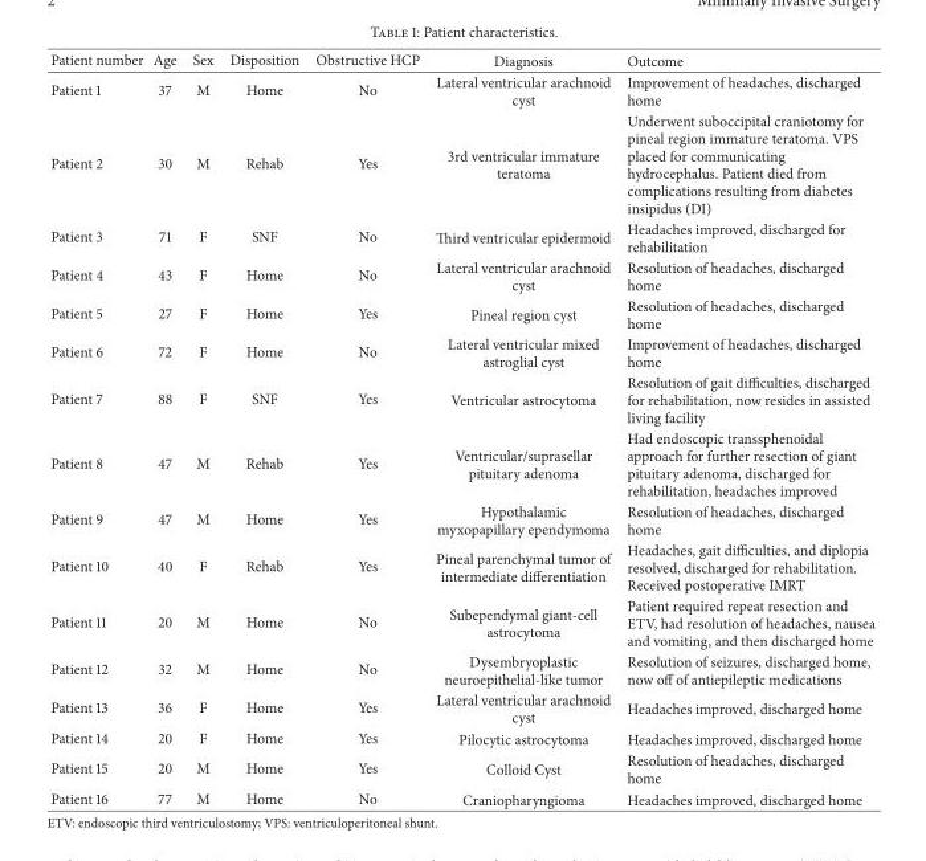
<table><thead><tr><td>Patient number</td><td>Age</td><td>Sex</td><td>Disposition</td><td>Obstructive HCP</td><td>Diagnosis</td><td>Outcome</td></tr></thead><tbody><tr><td>Patient 1</td><td>37</td><td>M</td><td>Home</td><td>No</td><td>Lateral ventricular arachnoid cyst</td><td>Improvement of headaches, discharged home</td></tr><tr><td>Patient 2</td><td>30</td><td>M</td><td>Rehab</td><td>Yes</td><td>3rd ventricular immature teratoma</td><td>Underwent suboccipital craniotomy for pineal region immature teratoma. VPS placed for communicating hydrocephalus. Patient died from complications resulting from diabetes insipidus (DI)</td></tr><tr><td>Patient 3</td><td>71</td><td>F</td><td>SNF</td><td>No</td><td>Third ventricular epidermoid</td><td>Headaches improved, discharged for rehabilitation</td></tr><tr><td>Patient 4</td><td>43</td><td>F</td><td>Home</td><td>No</td><td>Lateral ventricular arachnoid cyst</td><td>Resolution of headaches, discharged home</td></tr><tr><td>Patient 5</td><td>27</td><td>F</td><td>Home</td><td>Yes</td><td>Pineal region cyst</td><td>Resolution of headaches, discharged home</td></tr><tr><td>Patient 6</td><td>72</td><td>F</td><td>Home</td><td>No</td><td>Lateral ventricular mixed astroglial cyst</td><td>Improvement of headaches, discharged home</td></tr><tr><td>Patient 7</td><td>88</td><td>F</td><td>SNF</td><td>Yes</td><td>Ventricular astrocytoma</td><td>Resolution of gait difficulties, discharged for rehabilitation, now resides in assisted living facility</td></tr><tr><td>Patient 8</td><td>47</td><td>M</td><td>Rehab</td><td>Yes</td><td>Ventricular/suprasellar pituitary adenoma</td><td>Had endoscopic transsphenoidal approach for further resection of giant pituitary adenoma, discharged for rehabilitation, headaches improved</td></tr><tr><td>Patient 9</td><td>47</td><td>M</td><td>Home</td><td>Yes</td><td>Hypothalamic myxopapillary ependymoma</td><td>Resolution of headaches, discharged home</td></tr><tr><td>Patient 10</td><td>40</td><td>F</td><td>Rehab</td><td>Yes</td><td>Pineal parenchymal tumor of intermediate differentiation</td><td>Headaches, gait difficulties, and diplopia resolved, discharged for rehabilitation. Received postoperative IMRT</td></tr><tr><td>Patient 11</td><td>20</td><td>M</td><td>Home</td><td>No</td><td>Subependymal giant-cell astrocytoma</td><td>Patient required repeat resection and ETV, had resolution of headaches, nausea and vomiting, and then discharged home</td></tr><tr><td>Patient 12</td><td>32</td><td>M</td><td>Home</td><td>No</td><td>Dysembryoplastic neuroepithelial-like tumor</td><td>Resolution of seizures, discharged home, now off of antiepileptic medications</td></tr><tr><td>Patient 13</td><td>36</td><td>F</td><td>Home</td><td>Yes</td><td>Lateral ventricular arachnoid cyst</td><td>Headaches improved, discharged home</td></tr><tr><td>Patient 14</td><td>20</td><td>F</td><td>Home</td><td>Yes</td><td>Pilocytic astrocytoma</td><td>Headaches improved, discharged home</td></tr><tr><td>Patient 15</td><td>20</td><td>M</td><td>Home</td><td>Yes</td><td>Colloid Cyst</td><td>Resolution of headaches, discharged home</td></tr><tr><td>Patient 16</td><td>77</td><td>M</td><td>Home</td><td>No</td><td>Craniopharyngioma</td><td>Headaches improved, discharged home</td></tr></tbody></table>